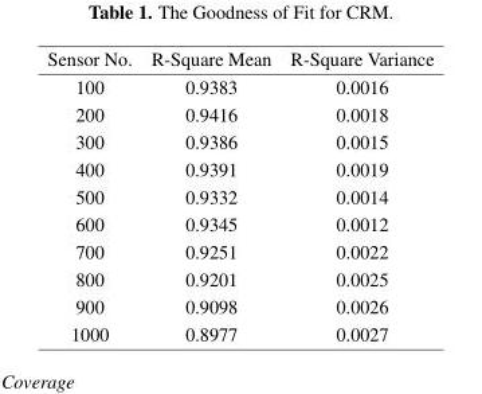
<table><thead><tr><td>Sensor No.</td><td>R-Square Mean</td><td>R-Square Variance</td></tr></thead><tbody><tr><td>100</td><td>0.9383</td><td>0.0016</td></tr><tr><td>200</td><td>0.9416</td><td>0.0018</td></tr><tr><td>300</td><td>0.9386</td><td>0.0015</td></tr><tr><td>400</td><td>0.9391</td><td>0.0019</td></tr><tr><td>500</td><td>0.9332</td><td>0.0014</td></tr><tr><td>600</td><td>0.9345</td><td>0.0012</td></tr><tr><td>700</td><td>0.9251</td><td>0.0022</td></tr><tr><td>800</td><td>0.9201</td><td>0.0025</td></tr><tr><td>900</td><td>0.9098</td><td>0.0026</td></tr><tr><td>1000</td><td>0.8977</td><td>0.0027</td></tr></tbody></table>